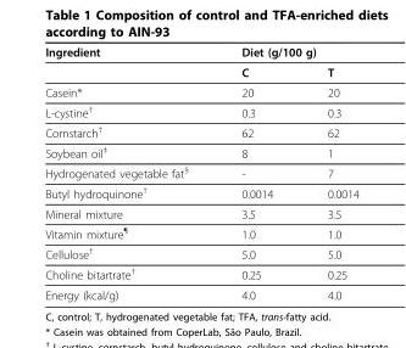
<table><thead><tr><td rowspan="2">Ingredient</td><td colspan="2">Diet (g/100 g)</td></tr><tr><td>C</td><td>T</td></tr></thead><tbody><tr><td>Casein*</td><td>20</td><td>20</td></tr><tr><td>L-cystine<sup>†</sup></td><td>0.3</td><td>0.3</td></tr><tr><td>Cornstarch<sup>†</sup></td><td>62</td><td>62</td></tr><tr><td>Soybean oil<sup>‡</sup></td><td>8</td><td>1</td></tr><tr><td>Hydrogenated vegetable fat<sup>§</sup></td><td>-</td><td>7</td></tr><tr><td>Butyl hydroquinone<sup>†</sup></td><td>0.0014</td><td>0.0014</td></tr><tr><td>Mineral mixture</td><td>3.5</td><td>3.5</td></tr><tr><td>Vitamin mixture<sup>¶</sup></td><td>1.0</td><td>1.0</td></tr><tr><td>Cellulose<sup>†</sup></td><td>5.0</td><td>5.0</td></tr><tr><td>Choline bitartrate<sup>†</sup></td><td>0.25</td><td>0.25</td></tr><tr><td>Energy (kcal/g)</td><td>4.0</td><td>4.0</td></tr></tbody></table>